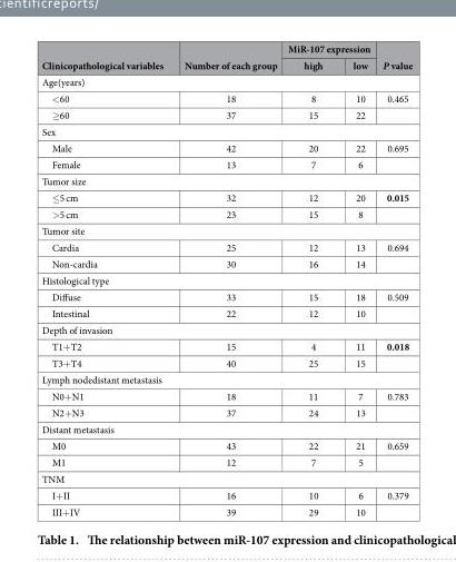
<table><thead><tr><td rowspan="2">Clinicopathological variables</td><td rowspan="2">Number of each group</td><td colspan="2">MiR-107 expression</td><td rowspan="2">P value</td></tr><tr><td>high</td><td>low</td></tr></thead><tbody><tr><td colspan="5">Age(years)</td></tr><tr><td>&lt; 60</td><td>18</td><td>8</td><td>10</td><td>0.465</td></tr><tr><td>≥ 60</td><td>37</td><td>15</td><td>22</td><td></td></tr><tr><td colspan="5">Sex</td></tr><tr><td>Male</td><td>42</td><td>20</td><td>22</td><td>0.695</td></tr><tr><td>Female</td><td>13</td><td>7</td><td>6</td><td></td></tr><tr><td colspan="5">Tumor size</td></tr><tr><td>≤ 5 cm</td><td>32</td><td>12</td><td>20</td><td>0.015</td></tr><tr><td>&gt; 5 cm</td><td>23</td><td>15</td><td>8</td><td></td></tr><tr><td colspan="5">Tumor site</td></tr><tr><td>Cardia</td><td>25</td><td>12</td><td>13</td><td>0.694</td></tr><tr><td>Non-cardia</td><td>30</td><td>16</td><td>14</td><td></td></tr><tr><td colspan="5">Histological type</td></tr><tr><td>Diffuse</td><td>33</td><td>15</td><td>18</td><td>0.509</td></tr><tr><td>Intestinal</td><td>22</td><td>12</td><td>10</td><td></td></tr><tr><td colspan="5">Depth of invasion</td></tr><tr><td>T1+ T2</td><td>15</td><td>4</td><td>11</td><td>0.018</td></tr><tr><td>T3+ T4</td><td>40</td><td>25</td><td>15</td><td></td></tr><tr><td colspan="5">Lymph nodedistant metastasis</td></tr><tr><td>N0+ N1</td><td>18</td><td>11</td><td>7</td><td>0.783</td></tr><tr><td>N2+ N3</td><td>37</td><td>24</td><td>13</td><td></td></tr><tr><td colspan="5">Distant metastasis</td></tr><tr><td>M0</td><td>43</td><td>22</td><td>21</td><td>0.659</td></tr><tr><td>M1</td><td>12</td><td>7</td><td>5</td><td></td></tr><tr><td colspan="5">TNM</td></tr><tr><td>I+ II</td><td>16</td><td>10</td><td>6</td><td>0.379</td></tr><tr><td>III+ IV</td><td>39</td><td>29</td><td>10</td><td></td></tr></tbody></table>